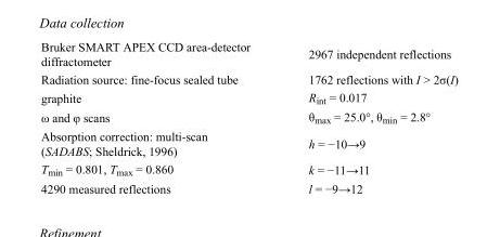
<table><tbody><tr><td>Bruker SMART APEX CCD area-detector diffractometer</td><td>2967 independent reflections</td></tr><tr><td>Radiation source: fine-focus sealed tube</td><td>1762 reflections with I &gt; 2σ(I)</td></tr><tr><td>graphite</td><td>R<sub>int</sub> = 0.017</td></tr><tr><td>ω and φ scans</td><td>θ<sub>max</sub> = 25.0°, θ<sub>min</sub> = 2.8°</td></tr><tr><td>Absorption correction: multi-scan (SADABS; Sheldrick, 1996)</td><td>h = −10→9</td></tr><tr><td>T<sub>min</sub> = 0.801, T<sub>max</sub> = 0.860</td><td>k = −11→11</td></tr><tr><td>4290 measured reflections</td><td>l = −9→12</td></tr></tbody></table>